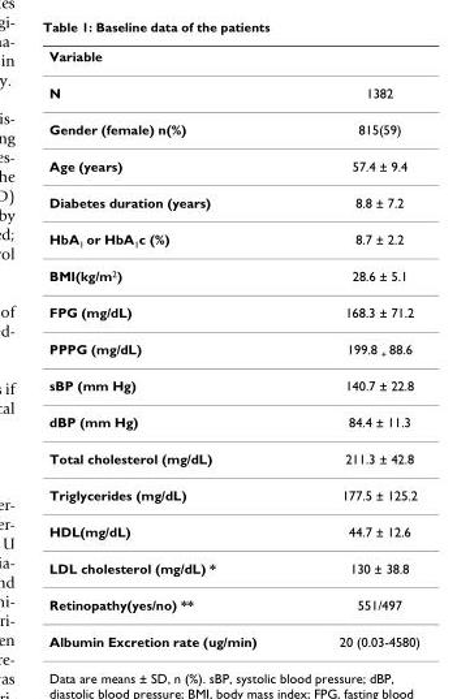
<table><thead><tr><td>Variable</td><td></td></tr></thead><tbody><tr><td>N</td><td>1382</td></tr><tr><td>Gender (female) n(%)</td><td>815(59)</td></tr><tr><td>Age (years)</td><td>57.4 ± 9.4</td></tr><tr><td>Diabetes duration (years)</td><td>8.8 ± 7.2</td></tr><tr><td>HbA<sub>1</sub> or HbA<sub>1</sub>c (%)</td><td>8.7 ± 2.2</td></tr><tr><td>BMI(kg/m<sup>2</sup>)</td><td>28.6 ± 5.1</td></tr><tr><td>FPG (mg/dL)</td><td>168.3 ± 71.2</td></tr><tr><td>PPPG (mg/dL)</td><td>199.8 <sub>+</sub> 88.6</td></tr><tr><td>sBP (mm Hg)</td><td>140.7 ± 22.8</td></tr><tr><td>dBP (mm Hg)</td><td>84.4 ± 11.3</td></tr><tr><td>Total cholesterol (mg/dL)</td><td>211.3 ± 42.8</td></tr><tr><td>Triglycerides (mg/dL)</td><td>177.5 ± 125.2</td></tr><tr><td>HDL(mg/dL)</td><td>44.7 ± 12.6</td></tr><tr><td>LDL cholesterol (mg/dL) *</td><td>130 ± 38.8</td></tr><tr><td>Retinopathy(yes/no) **</td><td>551/497</td></tr><tr><td>Albumin Excretion rate (ug/min)</td><td>20 (0.03-4580)</td></tr></tbody></table>